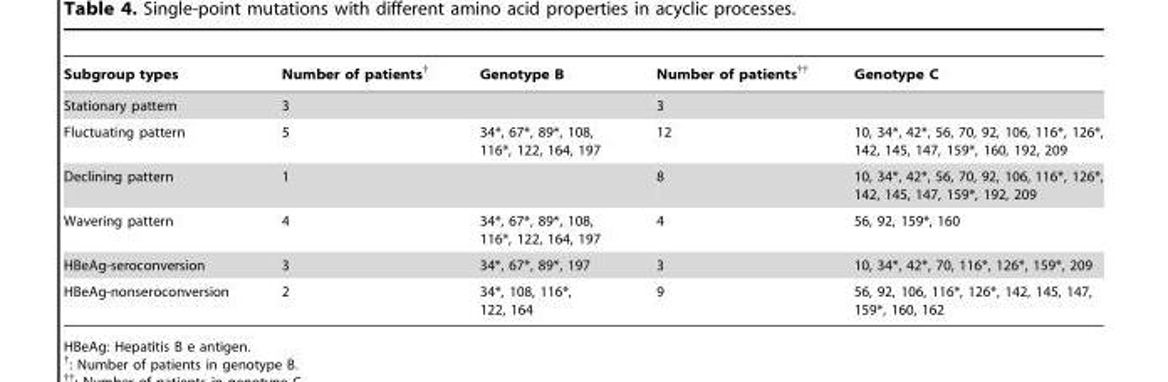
<table><thead><tr><td>Subgroup types</td><td>Number of patients†</td><td>Genotype B</td><td>Number of patients††</td><td>Genotype C</td></tr></thead><tbody><tr><td>Stationary pattern</td><td>3</td><td></td><td>3</td><td></td></tr><tr><td>Fluctuating pattern</td><td>5</td><td>34*, 67*, 89*, 108, 116*, 122, 164, 197</td><td>12</td><td>10, 34*, 42*, 56, 70, 92, 106, 116*, 126*, 142, 145, 147, 159*, 160, 192, 209</td></tr><tr><td>Declining pattern</td><td>1</td><td></td><td>8</td><td>10, 34*, 42*, 56, 70, 92, 106, 116*, 126*, 142, 145, 147, 159*, 192, 209</td></tr><tr><td>Wavering pattern</td><td>4</td><td>34*, 67*, 89*, 108, 116*, 122, 164, 197</td><td>4</td><td>56, 92, 159*, 160</td></tr><tr><td>HBeAg-seroconversion</td><td>3</td><td>34*, 67*, 89*, 197</td><td>3</td><td>10, 34*, 42*, 70, 116*, 126*, 159*, 209</td></tr><tr><td>HBeAg-nonseroconversion</td><td>2</td><td>34*, 108, 116*, 122, 164</td><td>9</td><td>56, 92, 106, 116*, 126*, 142, 145, 147, 159*, 160, 162</td></tr></tbody></table>